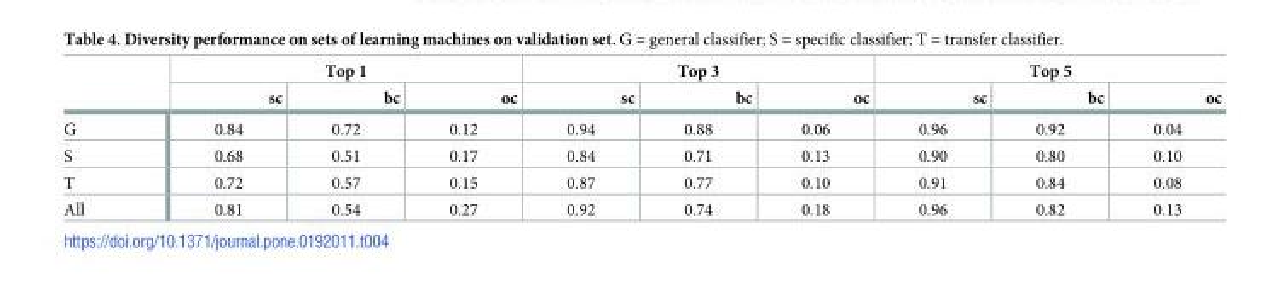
<table><thead><tr><td rowspan="2"></td><td colspan="3">Top 1</td><td colspan="3">Top 3</td><td colspan="3">Top 5</td></tr><tr><td>sc</td><td>bc</td><td>oc</td><td>sc</td><td>bc</td><td>oc</td><td>sc</td><td>bc</td><td>oc</td></tr></thead><tbody><tr><td>G</td><td>0.84</td><td>0.72</td><td>0.12</td><td>0.94</td><td>0.88</td><td>0.06</td><td>0.96</td><td>0.92</td><td>0.04</td></tr><tr><td>S</td><td>0.68</td><td>0.51</td><td>0.17</td><td>0.84</td><td>0.71</td><td>0.13</td><td>0.90</td><td>0.80</td><td>0.10</td></tr><tr><td>T</td><td>0.72</td><td>0.57</td><td>0.15</td><td>0.87</td><td>0.77</td><td>0.10</td><td>0.91</td><td>0.84</td><td>0.08</td></tr><tr><td>All</td><td>0.81</td><td>0.54</td><td>0.27</td><td>0.92</td><td>0.74</td><td>0.18</td><td>0.96</td><td>0.82</td><td>0.13</td></tr></tbody></table>